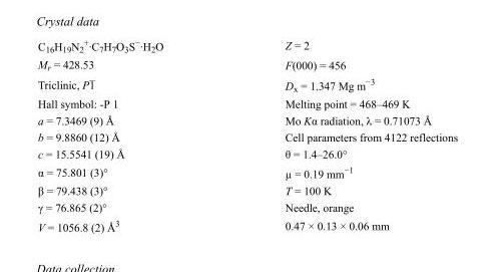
<table><tbody><tr><td>C<sub>16</sub>H<sub>19</sub>N<sub>2</sub> <sup>+</sup>·C<sub>7</sub>H<sub>7</sub>O<sub>3</sub>S<sup>−</sup>·H<sub>2</sub>O</td><td>Z = 2</td></tr><tr><td>M<sub>r</sub> = 428.53</td><td>F(000) = 456</td></tr><tr><td>Triclinic, P1</td><td>D<sub>x</sub> = 1.347 Mg m<sup>−3</sup></td></tr><tr><td>Hall symbol: -P 1</td><td>Melting point = 468–469 K</td></tr><tr><td>a = 7.3469 (9) Å</td><td>Mo Kα radiation, λ = 0.71073 Å</td></tr><tr><td>b = 9.8860 (12) Å</td><td>Cell parameters from 4122 reflections</td></tr><tr><td>c = 15.5541 (19) Å</td><td>θ = 1.4–26.0°</td></tr><tr><td>α = 75.801 (3)°</td><td>µ = 0.19 mm<sup>−1</sup></td></tr><tr><td>β = 79.438 (3)°</td><td>T = 100 K</td></tr><tr><td>γ = 76.865 (2)°</td><td>Needle, orange</td></tr><tr><td>V = 1056.8 (2) Å<sup>3</sup></td><td>0.47 × 0.13 × 0.06 mm</td></tr></tbody></table>